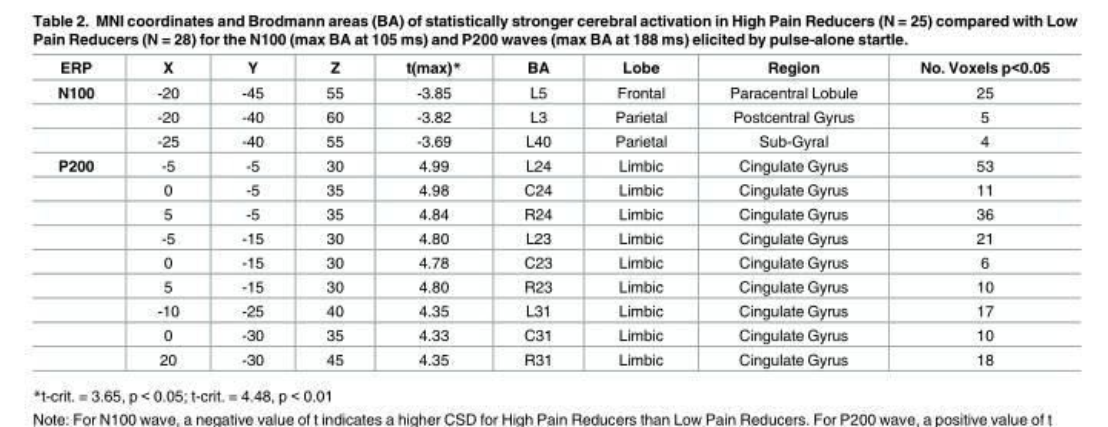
<table><thead><tr><td>ERP</td><td>X</td><td>Y</td><td>Z</td><td>t(max)*</td><td>BA</td><td>Lobe</td><td>Region</td><td>No. Voxels p&lt;0.05</td></tr></thead><tbody><tr><td rowspan="3">N100</td><td>-20</td><td>-45</td><td>55</td><td>-3.85</td><td>L5</td><td>Frontal</td><td>Paracentral Lobule</td><td>25</td></tr><tr><td>-20</td><td>-40</td><td>60</td><td>-3.82</td><td>L3</td><td>Parietal</td><td>Postcentral Gyrus</td><td>5</td></tr><tr><td>-25</td><td>-40</td><td>55</td><td>-3.69</td><td>L40</td><td>Parietal</td><td>Sub-Gyral</td><td>4</td></tr><tr><td rowspan="9">P200</td><td>-5</td><td>-5</td><td>30</td><td>4.99</td><td>L24</td><td>Limbic</td><td>Cingulate Gyrus</td><td>53</td></tr><tr><td>0</td><td>-5</td><td>35</td><td>4.98</td><td>C24</td><td>Limbic</td><td>Cingulate Gyrus</td><td>11</td></tr><tr><td>5</td><td>-5</td><td>35</td><td>4.84</td><td>R24</td><td>Limbic</td><td>Cingulate Gyrus</td><td>36</td></tr><tr><td>-5</td><td>-15</td><td>30</td><td>4.80</td><td>L23</td><td>Limbic</td><td>Cingulate Gyrus</td><td>21</td></tr><tr><td>0</td><td>-15</td><td>30</td><td>4.78</td><td>C23</td><td>Limbic</td><td>Cingulate Gyrus</td><td>6</td></tr><tr><td>5</td><td>-15</td><td>30</td><td>4.80</td><td>R23</td><td>Limbic</td><td>Cingulate Gyrus</td><td>10</td></tr><tr><td>-10</td><td>-25</td><td>40</td><td>4.35</td><td>L31</td><td>Limbic</td><td>Cingulate Gyrus</td><td>17</td></tr><tr><td>0</td><td>-30</td><td>35</td><td>4.33</td><td>C31</td><td>Limbic</td><td>Cingulate Gyrus</td><td>10</td></tr><tr><td>20</td><td>-30</td><td>45</td><td>4.35</td><td>R31</td><td>Limbic</td><td>Cingulate Gyrus</td><td>18</td></tr></tbody></table>